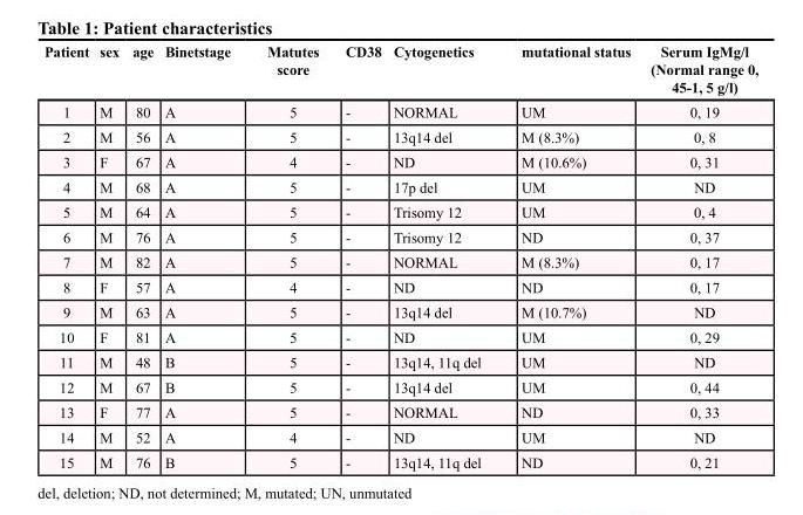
<table><thead><tr><td>Patient</td><td>sex</td><td>age</td><td>Binetstage</td><td>Matutes score</td><td>CD38</td><td>Cytogenetics</td><td>mutational status</td><td>Serum IgMg/l (Normal range 0, 45-1, 5 g/l)</td></tr></thead><tbody><tr><td>1</td><td>M</td><td>80</td><td>A</td><td>5</td><td></td><td>NORMAL</td><td>UM</td><td>0, 19</td></tr><tr><td>2</td><td>M</td><td>56</td><td>A</td><td>5</td><td></td><td>13q14 del</td><td>M (8.3%)</td><td>0, 8</td></tr><tr><td>3</td><td>F</td><td>67</td><td>A</td><td>4</td><td></td><td>ND</td><td>M (10.6%)</td><td>0, 31</td></tr><tr><td>4</td><td>M</td><td>68</td><td>A</td><td>5</td><td></td><td>17p del</td><td>UM</td><td>ND</td></tr><tr><td>5</td><td>M</td><td>64</td><td>A</td><td>5</td><td></td><td>Trisomy 12</td><td>UM</td><td>0, 4</td></tr><tr><td>6</td><td>M</td><td>76</td><td>A</td><td>5</td><td></td><td>Trisomy 12</td><td>ND</td><td>0, 37</td></tr><tr><td>7</td><td>M</td><td>82</td><td>A</td><td>5</td><td></td><td>NORMAL</td><td>M (8.3%)</td><td>0, 17</td></tr><tr><td>8</td><td>F</td><td>57</td><td>A</td><td>4</td><td></td><td>ND</td><td>ND</td><td>0, 17</td></tr><tr><td>9</td><td>M</td><td>63</td><td>A</td><td>5</td><td></td><td>13q14 del</td><td>M (10.7%)</td><td>ND</td></tr><tr><td>10</td><td>F</td><td>81</td><td>A</td><td>5</td><td></td><td>ND</td><td>UM</td><td>0, 29</td></tr><tr><td>11</td><td>M</td><td>48</td><td>B</td><td>5</td><td></td><td>13q14, 11q del</td><td>UM</td><td>ND</td></tr><tr><td>12</td><td>M</td><td>67</td><td>B</td><td>5</td><td></td><td>13q14 del</td><td>UM</td><td>0, 44</td></tr><tr><td>13</td><td>F</td><td>77</td><td>A</td><td>5</td><td></td><td>NORMAL</td><td>ND</td><td>0, 33</td></tr><tr><td>14</td><td>M</td><td>52</td><td>A</td><td>4</td><td></td><td>ND</td><td>UM</td><td>ND</td></tr><tr><td>15</td><td>M</td><td>76</td><td>B</td><td>5</td><td></td><td>13q14, 11q del</td><td>ND</td><td>0, 21</td></tr></tbody></table>